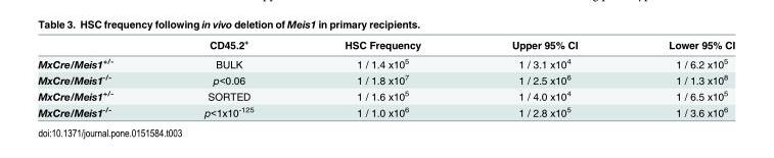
<table><thead><tr><td></td><td>CD45.2<sup>+</sup></td><td>HSC Frequency</td><td>Upper 95% CI</td><td>Lower 95% CI</td></tr></thead><tbody><tr><td>MxCre/Meis1<sup>+/-</sup></td><td>BULK</td><td>1 / 1.4 x10<sup>5</sup></td><td>1 / 3.1 x10<sup>4</sup></td><td>1 / 6.2 x10<sup>5</sup></td></tr><tr><td>MxCre/Meis1<sup>-/-</sup></td><td>p&lt;0.06</td><td>1 / 1.8 x10<sup>7</sup></td><td>1 / 2.5 x10<sup>6</sup></td><td>1 / 1.3 x10<sup>8</sup></td></tr><tr><td>MxCre/Meis1<sup>+/-</sup></td><td>SORTED</td><td>1 / 1.6 x10<sup>5</sup></td><td>1 / 4.0 x10<sup>4</sup></td><td>1 / 6.5 x10<sup>5</sup></td></tr><tr><td>MxCre/Meis1<sup>-/-</sup></td><td>p&lt;1x10<sup>-125</sup></td><td>1 / 1.0 x10<sup>6</sup></td><td>1 / 2.8 x10<sup>5</sup></td><td>1 / 3.6 x10<sup>6</sup></td></tr></tbody></table>